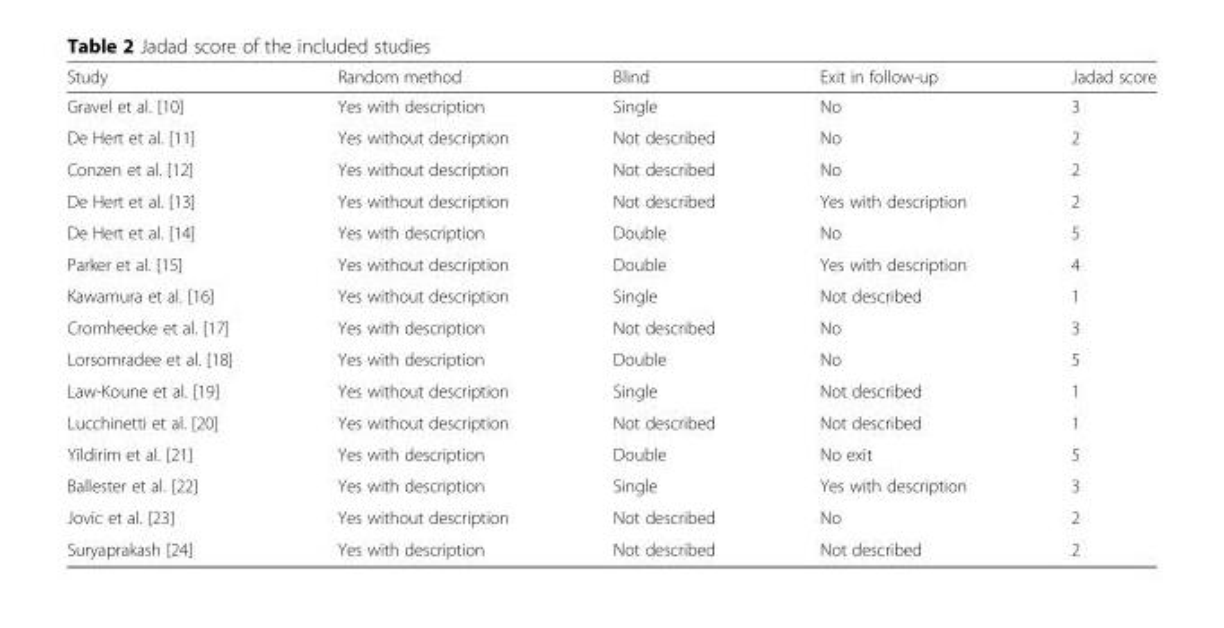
<table><thead><tr><td>Study</td><td>Random method</td><td>Blind</td><td>Exit in follow-up</td><td>Jadad score</td></tr></thead><tbody><tr><td>Gravel et al. [10]</td><td>Yes with description</td><td>Single</td><td>No</td><td>3</td></tr><tr><td>De Hert et al. [11]</td><td>Yes without description</td><td>Not described</td><td>No</td><td>2</td></tr><tr><td>Conzen et al. [12]</td><td>Yes without description</td><td>Not described</td><td>No</td><td>2</td></tr><tr><td>De Hert et al. [13]</td><td>Yes without description</td><td>Not described</td><td>Yes with description</td><td>2</td></tr><tr><td>De Hert et al. [14]</td><td>Yes with description</td><td>Double</td><td>No</td><td>5</td></tr><tr><td>Parker et al. [15]</td><td>Yes without description</td><td>Double</td><td>Yes with description</td><td>4</td></tr><tr><td>Kawamura et al. [16]</td><td>Yes without description</td><td>Single</td><td>Not described</td><td>1</td></tr><tr><td>Cromheecke et al. [17]</td><td>Yes with description</td><td>Not described</td><td>No</td><td>3</td></tr><tr><td>Lorsomradee et al. [18]</td><td>Yes with description</td><td>Double</td><td>No</td><td>5</td></tr><tr><td>Law-Koune et al. [19]</td><td>Yes without description</td><td>Single</td><td>Not described</td><td>1</td></tr><tr><td>Lucchinetti et al. [20]</td><td>Yes without description</td><td>Not described</td><td>Not described</td><td>1</td></tr><tr><td>Yildirim et al. [21]</td><td>Yes with description</td><td>Double</td><td>No exit</td><td>5</td></tr><tr><td>Ballester et al. [22]</td><td>Yes with description</td><td>Single</td><td>Yes with description</td><td>3</td></tr><tr><td>Jovic et al. [23]</td><td>Yes without description</td><td>Not described</td><td>No</td><td>2</td></tr><tr><td>Suryaprakash [24]</td><td>Yes with description</td><td>Not described</td><td>Not described</td><td>2</td></tr></tbody></table>